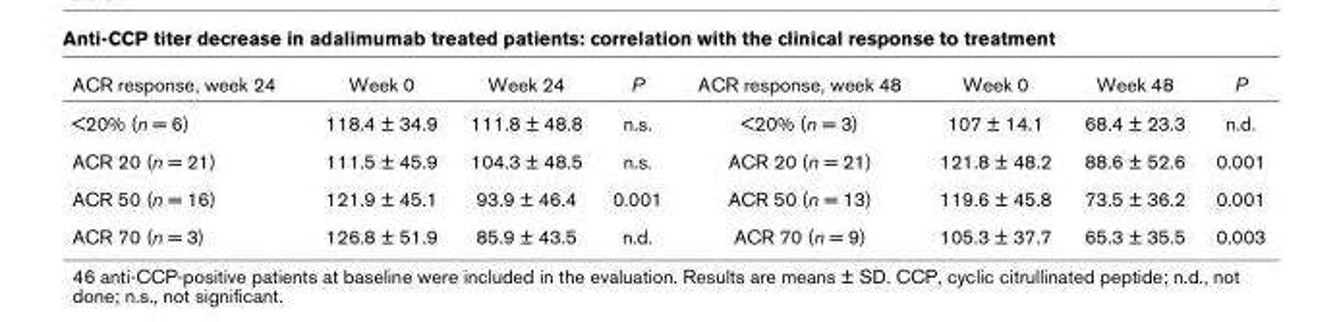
<table><thead><tr><td>ACR response, week 24</td><td>Week 0</td><td>Week 24</td><td>P</td><td>ACR response, week 48</td><td>Week 0</td><td>Week 48</td><td>P</td></tr></thead><tbody><tr><td>&lt;20% (n = 6)</td><td>118.4 ± 34.9</td><td>111.8 ± 48.8</td><td>n.s.</td><td>&lt;20% (n = 3)</td><td>107 ± 14.1</td><td>68.4 ± 23.3</td><td>n.d.</td></tr><tr><td>ACR 20 (n = 21)</td><td>111.5 ± 45.9</td><td>104.3 ± 48.5</td><td>n.s.</td><td>ACR 20 (n = 21)</td><td>121.8 ± 48.2</td><td>88.6 ± 52.6</td><td>0.001</td></tr><tr><td>ACR 50 (n = 16)</td><td>121.9 ± 45.1</td><td>93.9 ± 46.4</td><td>0.001</td><td>ACR 50 (n = 13)</td><td>119.6 ± 45.8</td><td>73.5 ± 36.2</td><td>0.001</td></tr><tr><td>ACR 70 (n = 3)</td><td>126.8 ± 51.9</td><td>85.9 ± 43.5</td><td>n.d.</td><td>ACR 70 (n = 9)</td><td>105.3 ± 37.7</td><td>65.3 ± 35.5</td><td>0.003</td></tr></tbody></table>